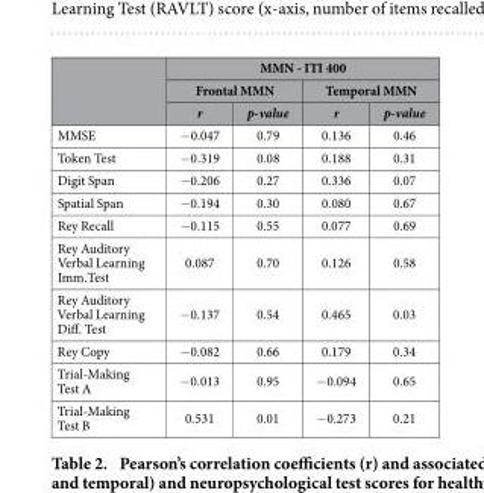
<table><thead><tr><td rowspan="3"></td><td colspan="4">MMN - ITI 400</td></tr><tr><td colspan="2">Frontal MMN</td><td colspan="2">Temporal MMN</td></tr><tr><td>r</td><td>p-value</td><td>r</td><td>p-value</td></tr></thead><tbody><tr><td>MMSE</td><td>− 0.047</td><td>0.79</td><td>0.136</td><td>0.46</td></tr><tr><td>Token Test</td><td>− 0.319</td><td>0.08</td><td>0.188</td><td>0.31</td></tr><tr><td>Digit Span</td><td>− 0.206</td><td>0.27</td><td>0.336</td><td>0.07</td></tr><tr><td>Spatial Span</td><td>− 0.194</td><td>0.30</td><td>0.080</td><td>0.67</td></tr><tr><td>Rey Recall</td><td>− 0.115</td><td>0.55</td><td>0.077</td><td>0.69</td></tr><tr><td>Rey Auditory Verbal Learning Imm.Test</td><td>0.087</td><td>0.70</td><td>0.126</td><td>0.58</td></tr><tr><td>Rey Auditory Verbal Learning Diff. Test</td><td>− 0.137</td><td>0.54</td><td>0.465</td><td>0.03</td></tr><tr><td>Rey Copy</td><td>− 0.082</td><td>0.66</td><td>0.179</td><td>0.34</td></tr><tr><td>Trial-Making Test A</td><td>− 0.013</td><td>0.95</td><td>− 0.094</td><td>0.65</td></tr><tr><td>Trial-Making Test B</td><td>0.531</td><td>0.01</td><td>− 0.273</td><td>0.21</td></tr></tbody></table>